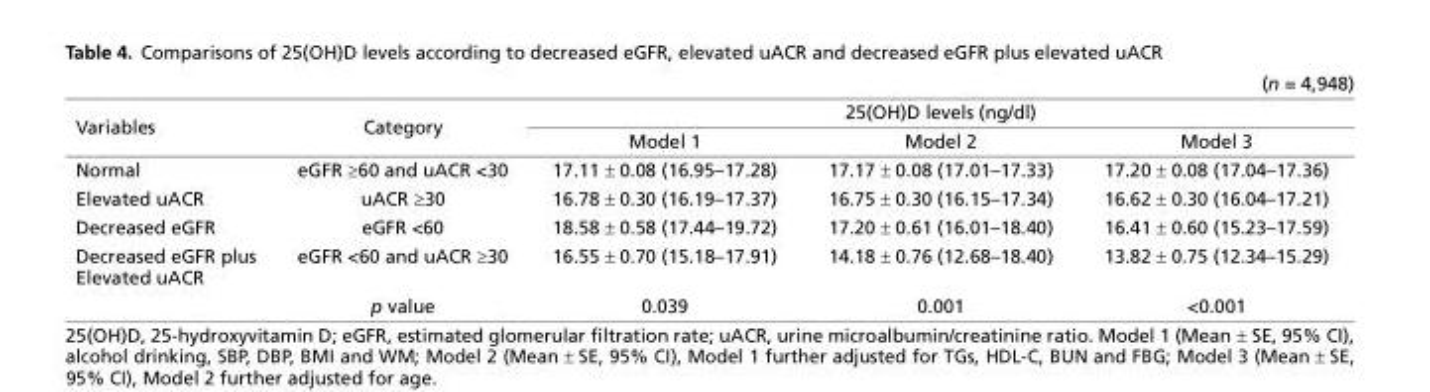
<table><thead><tr><td colspan="5">(n = 4,948)</td></tr><tr><td rowspan="2">Variables</td><td rowspan="2">Category</td><td colspan="3">25(OH)D levels (ng/dl)</td></tr><tr><td>Model 1</td><td>Model 2</td><td>Model 3</td></tr></thead><tbody><tr><td>Normal</td><td>eGFR ≥60 and uACR &lt;30</td><td>17.11 ± 0.08 (16.95–17.28)</td><td>17.17 ± 0.08 (17.01–17.33)</td><td>17.20 ± 0.08 (17.04–17.36)</td></tr><tr><td>Elevated uACR</td><td>uACR ≥30</td><td>16.78 ± 0.30 (16.19–17.37)</td><td>16.75 ± 0.30 (16.15–17.34)</td><td>16.62 ± 0.30 (16.04–17.21)</td></tr><tr><td>Decreased eGFR</td><td>eGFR &lt;60</td><td>18.58 ± 0.58 (17.44–19.72)</td><td>17.20 ± 0.61 (16.01–18.40)</td><td>16.41 ± 0.60 (15.23–17.59)</td></tr><tr><td rowspan="2">Decreased eGFR plus Elevated uACR</td><td>eGFR &lt;60 and uACR ≥30</td><td>16.55 ± 0.70 (15.18–17.91)</td><td>14.18 ± 0.76 (12.68–18.40)</td><td>13.82 ± 0.75 (12.34–15.29)</td></tr><tr><td>p value</td><td>0.039</td><td>0.001</td><td>&lt;0.001</td></tr></tbody></table>